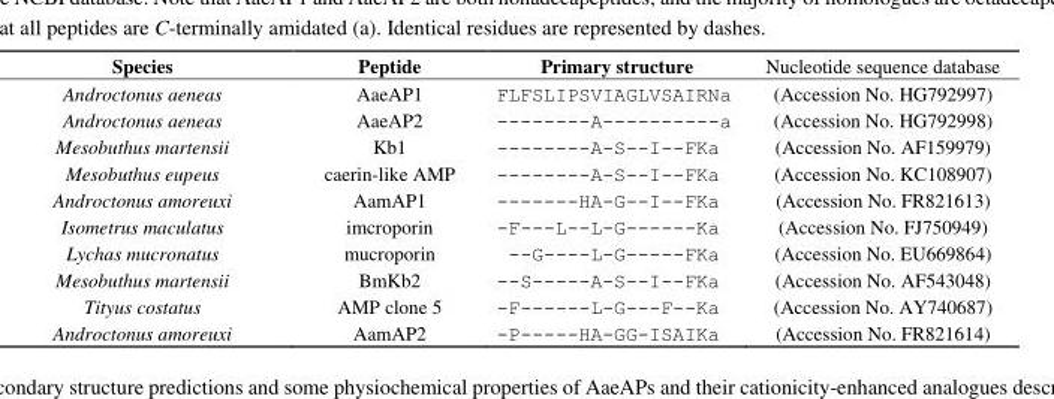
<table><thead><tr><td>Species</td><td>Peptide</td><td>Primary structure</td><td>Nucleotide sequence database</td></tr></thead><tbody><tr><td>Androctonus aeneas</td><td>AaeAP1</td><td>FLFSLIPSVIAGLVSAIRNa</td><td>(Accession No. HG792997)</td></tr><tr><td>Androctonus aeneas</td><td>AaeAP2</td><td>--------A----------a</td><td>(Accession No. HG792998)</td></tr><tr><td>Mesobuthus martensii</td><td>Kb1</td><td>--------A-S--I--FKa</td><td>(Accession No. AF159979)</td></tr><tr><td>Mesobuthus eupeus</td><td>caerin-like AMP</td><td>--------A-S--I--FKa</td><td>(Accession No. KC108907)</td></tr><tr><td>Androctonus amoreuxi</td><td>AamAP1</td><td>-------HA-G--I--FKa</td><td>(Accession No. FR821613)</td></tr><tr><td>Isometrus maculatus</td><td>imcroporin</td><td>-F---L--L-G------Ka</td><td>(Accession No. FJ750949)</td></tr><tr><td>Lychas mucronatus</td><td>mucroporin</td><td>--G----L-G-----FKa</td><td>(Accession No. EU669864)</td></tr><tr><td>Mesobuthus martensii</td><td>BmKb2</td><td>--S-----A-S--I--FKa</td><td>(Accession No. AF543048)</td></tr><tr><td>Tityus costatus</td><td>AMP clone 5</td><td>-F------L-G---F--Ka</td><td>(Accession No. AY740687)</td></tr><tr><td>Androctonus amoreuxi</td><td>AamAP2</td><td>-P-----HA-GG-ISAIKa</td><td>(Accession No. FR821614)</td></tr></tbody></table>